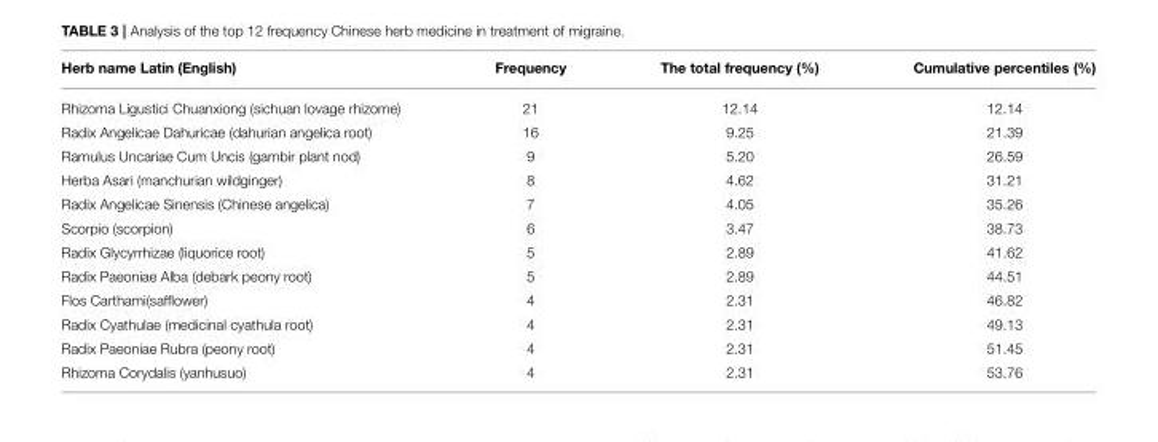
<table><thead><tr><td>Herb name Latin (English)</td><td>Frequency</td><td>The total frequency (%)</td><td>Cumulative percentiles (%)</td></tr></thead><tbody><tr><td>Rhizoma Ligustici Chuanxiong (sichuan lovage rhizome)</td><td>21</td><td>12.14</td><td>12.14</td></tr><tr><td>Radix Angelicae Dahuricae (dahurian angelica root)</td><td>16</td><td>9.25</td><td>21.39</td></tr><tr><td>Ramulus Uncariae Cum Uncis (gambir plant nod)</td><td>9</td><td>5.20</td><td>26.59</td></tr><tr><td>Herba Asari (manchurian wildginger)</td><td>8</td><td>4.62</td><td>31.21</td></tr><tr><td>Radix Angelicae Sinensis (Chinese angelica)</td><td>7</td><td>4.05</td><td>35.26</td></tr><tr><td>Scorpio (scorpion)</td><td>6</td><td>3.47</td><td>38.73</td></tr><tr><td>Radix Glycyrrhizae (liquorice root)</td><td>5</td><td>2.89</td><td>41.62</td></tr><tr><td>Radix Paeoniae Alba (debark peony root)</td><td>5</td><td>2.89</td><td>44.51</td></tr><tr><td>Flos Carthami(safflower)</td><td>4</td><td>2.31</td><td>46.82</td></tr><tr><td>Radix Cyathulae (medicinal cyathula root)</td><td>4</td><td>2.31</td><td>49.13</td></tr><tr><td>Radix Paeoniae Rubra (peony root)</td><td>4</td><td>2.31</td><td>51.45</td></tr><tr><td>Rhizoma Corydalis (yanhusuo)</td><td>4</td><td>2.31</td><td>53.76</td></tr></tbody></table>